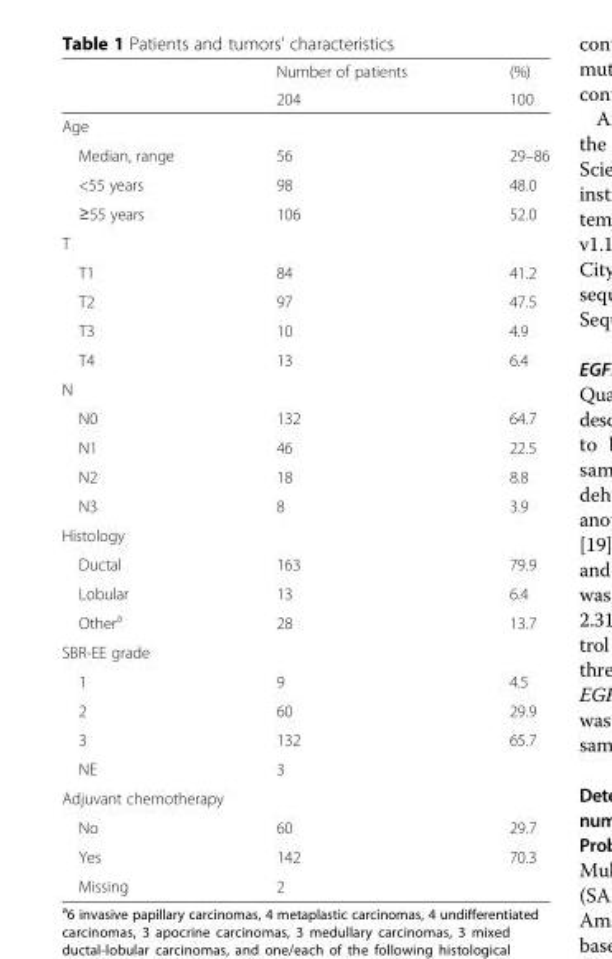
<table><thead><tr><td rowspan="2"></td><td rowspan="2">Number of patients 204</td><td rowspan="2">(%) 100</td></tr><tr></tr></thead><tbody><tr><td colspan="3">Age</td></tr><tr><td>Median, range</td><td>56</td><td>29–86</td></tr><tr><td>&lt;55 years</td><td>98</td><td>48.0</td></tr><tr><td>≥55 years</td><td>106</td><td>52.0</td></tr><tr><td colspan="3">T</td></tr><tr><td>T1</td><td>84</td><td>41.2</td></tr><tr><td>T2</td><td>97</td><td>47.5</td></tr><tr><td>T3</td><td>10</td><td>4.9</td></tr><tr><td>T4</td><td>13</td><td>6.4</td></tr><tr><td colspan="3">N</td></tr><tr><td>N0</td><td>132</td><td>64.7</td></tr><tr><td>N1</td><td>46</td><td>22.5</td></tr><tr><td>N2</td><td>18</td><td>8.8</td></tr><tr><td>N3</td><td>8</td><td>3.9</td></tr><tr><td colspan="3">Histology</td></tr><tr><td>Ductal</td><td>163</td><td>79.9</td></tr><tr><td>Lobular</td><td>13</td><td>6.4</td></tr><tr><td>Other<sup>a</sup></td><td>28</td><td>13.7</td></tr><tr><td colspan="3">SBR-EE grade</td></tr><tr><td>1</td><td>9</td><td>4.5</td></tr><tr><td>2</td><td>60</td><td>29.9</td></tr><tr><td>3</td><td>132</td><td>65.7</td></tr><tr><td>NE</td><td>3</td><td></td></tr><tr><td colspan="3">Adjuvant chemotherapy</td></tr><tr><td>No</td><td>60</td><td>29.7</td></tr><tr><td>Yes</td><td>142</td><td>70.3</td></tr><tr><td>Missing</td><td>2</td><td></td></tr></tbody></table>